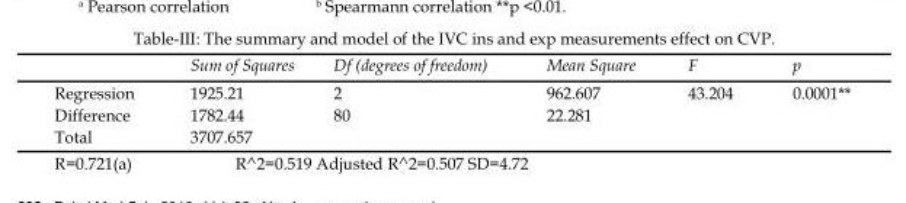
<table><thead><tr><td></td><td>Sum of Squares</td><td>Df (degrees of freedom)</td><td>Mean Square</td><td>F</td><td>p</td></tr></thead><tbody><tr><td>Regression</td><td>1925.21</td><td>2</td><td>962.607</td><td>43.204</td><td>0.0001**</td></tr><tr><td>Difference</td><td>1782.44</td><td>80</td><td>22.281</td><td></td><td></td></tr><tr><td>Total</td><td>3707.657</td><td></td><td></td><td></td><td></td></tr></tbody></table>